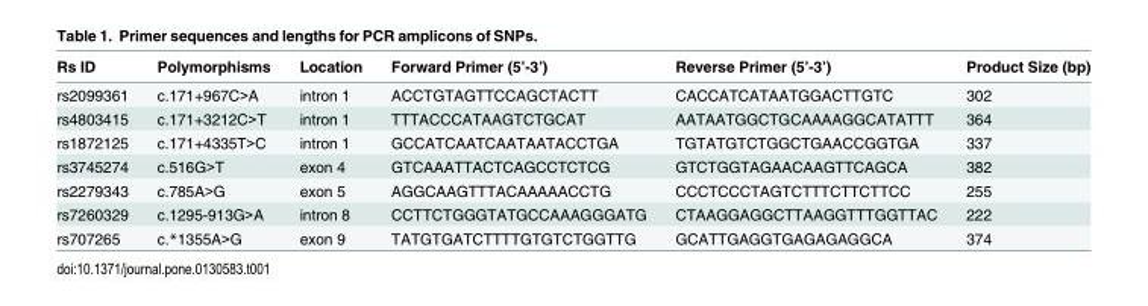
<table><thead><tr><td>Rs ID</td><td>Polymorphisms</td><td>Location</td><td>Forward Primer (5’-3’)</td><td>Reverse Primer (5’-3’)</td><td>Product Size (bp)</td></tr></thead><tbody><tr><td>rs2099361</td><td>c.171+967C&gt;A</td><td>intron 1</td><td>ACCTGTAGTTCCAGCTACTT</td><td>CACCATCATAATGGACTTGTC</td><td>302</td></tr><tr><td>rs4803415</td><td>c.171+3212C&gt;T</td><td>intron 1</td><td>TTTACCCATAAGTCTGCAT</td><td>AATAATGGCTGCAAAAGGCATATTT</td><td>364</td></tr><tr><td>rs1872125</td><td>c.171+4335T&gt;C</td><td>intron 1</td><td>GCCATCAATCAATAATACCTGA</td><td>TGTATGTCTGGCTGAACCGGTGA</td><td>337</td></tr><tr><td>rs3745274</td><td>c.516G&gt;T</td><td>exon 4</td><td>GTCAAATTACTCAGCCTCTCG</td><td>GTCTGGTAGAACAAGTTCAGCA</td><td>382</td></tr><tr><td>rs2279343</td><td>c.785A&gt;G</td><td>exon 5</td><td>AGGCAAGTTTACAAAAACCTG</td><td>CCCTCCCTAGTCTTTCTTCTTCC</td><td>255</td></tr><tr><td>rs7260329</td><td>c.1295-913G&gt;A</td><td>intron 8</td><td>CCTTCTGGGTATGCCAAAGGGATG</td><td>CTAAGGAGGCTTAAGGTTTGGTTAC</td><td>222</td></tr><tr><td>rs707265</td><td>c.*1355A&gt;G</td><td>exon 9</td><td>TATGTGATCTTTTGTGTCTGGTTG</td><td>GCATTGAGGTGAGAGAGGCA</td><td>374</td></tr></tbody></table>